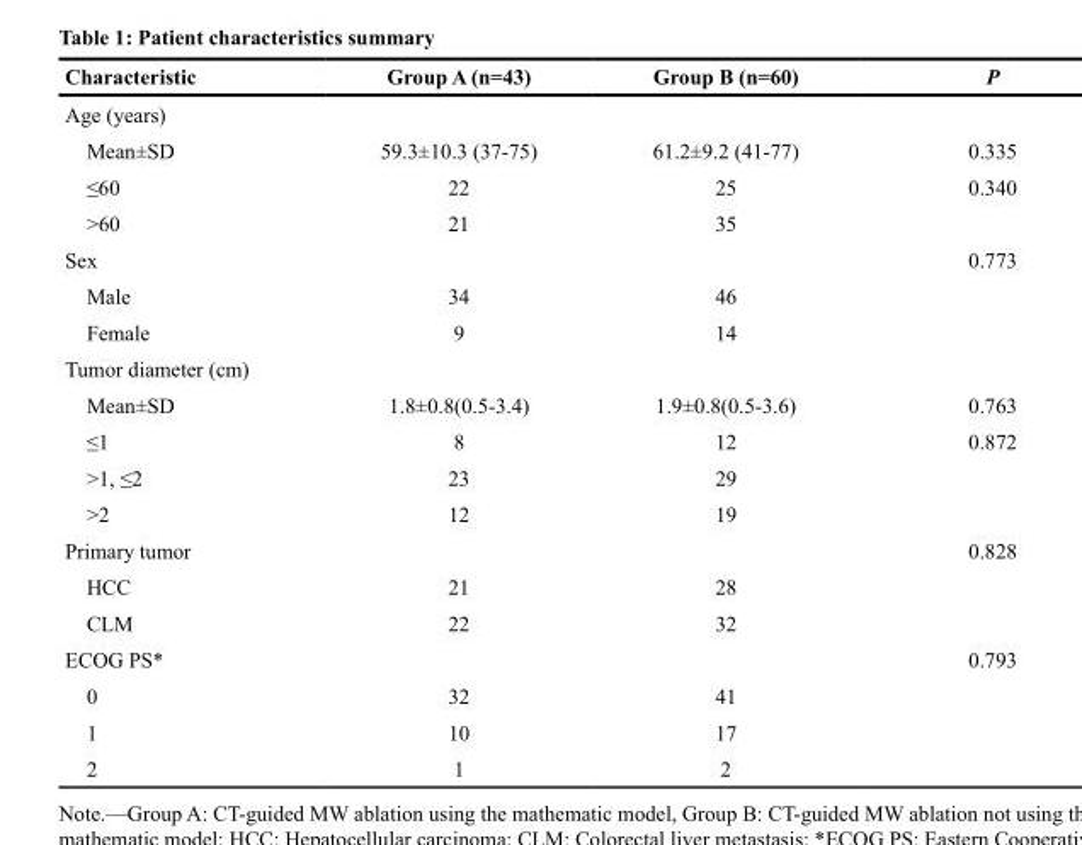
<table><thead><tr><td>Characteristic</td><td>Group A (n=43)</td><td>Group B (n=60)</td><td>P</td></tr></thead><tbody><tr><td colspan="4">Age (years)</td></tr><tr><td>Mean±SD</td><td>59.3±10.3 (37-75)</td><td>61.2±9.2 (41-77)</td><td>0.335</td></tr><tr><td>≤60</td><td>22</td><td>25</td><td>0.340</td></tr><tr><td>&gt;60</td><td>21</td><td>35</td><td></td></tr><tr><td>Sex</td><td></td><td></td><td>0.773</td></tr><tr><td>Male</td><td>34</td><td>46</td><td></td></tr><tr><td>Female</td><td>9</td><td>14</td><td></td></tr><tr><td colspan="4">Tumor diameter (cm)</td></tr><tr><td>Mean±SD</td><td>1.8±0.8(0.5-3.4)</td><td>1.9±0.8(0.5-3.6)</td><td>0.763</td></tr><tr><td>≤1</td><td>8</td><td>12</td><td>0.872</td></tr><tr><td>&gt;1, ≤2</td><td>23</td><td>29</td><td></td></tr><tr><td>&gt;2</td><td>12</td><td>19</td><td></td></tr><tr><td>Primary tumor</td><td></td><td></td><td>0.828</td></tr><tr><td>HCC</td><td>21</td><td>28</td><td></td></tr><tr><td>CLM</td><td>22</td><td>32</td><td></td></tr><tr><td>ECOG PS*</td><td></td><td></td><td>0.793</td></tr><tr><td>0</td><td>32</td><td>41</td><td></td></tr><tr><td>1</td><td>10</td><td>17</td><td></td></tr><tr><td>2</td><td>1</td><td>2</td><td></td></tr></tbody></table>